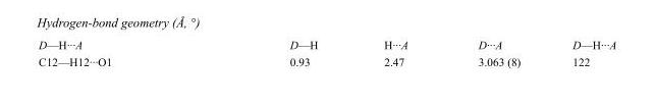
<table><tbody><tr><td>D—H···A</td><td>D—H</td><td>H···A</td><td>D···A</td><td>D—H···A</td></tr><tr><td>C12—H12···O1</td><td>0.93</td><td>2.47</td><td>3.063 (8)</td><td>122</td></tr></tbody></table>